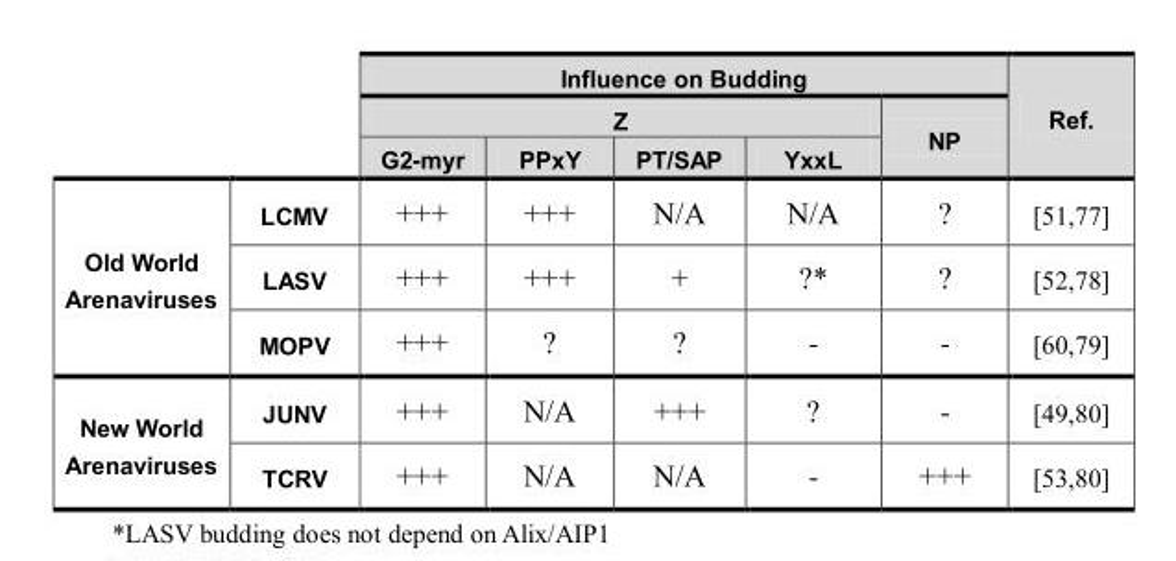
<table><thead><tr><td rowspan="3"></td><td rowspan="3"></td><td colspan="5">Influence on Budding</td><td rowspan="3">Ref.</td></tr><tr><td colspan="4">Z</td><td rowspan="2">NP</td></tr><tr><td>G2-myr</td><td>PPxY</td><td>PT/SAP</td><td>YxxL</td></tr></thead><tbody><tr><td rowspan="3">Old World Arenaviruses</td><td>LCMV</td><td>+++</td><td>+++</td><td>N/A</td><td>N/A</td><td>?</td><td>[51,77]</td></tr><tr><td>LASV</td><td>+++</td><td>+++</td><td>+</td><td>?*</td><td>?</td><td>[52,78]</td></tr><tr><td>MOPV</td><td>+++</td><td>?</td><td>?</td><td>-</td><td>-</td><td>[60,79]</td></tr><tr><td rowspan="2">New World Arenaviruses</td><td>JUNV</td><td>+++</td><td>N/A</td><td>+++</td><td>?</td><td>-</td><td>[49,80]</td></tr><tr><td>TCRV</td><td>+++</td><td>N/A</td><td>N/A</td><td>-</td><td>+++</td><td>[53,80]</td></tr></tbody></table>